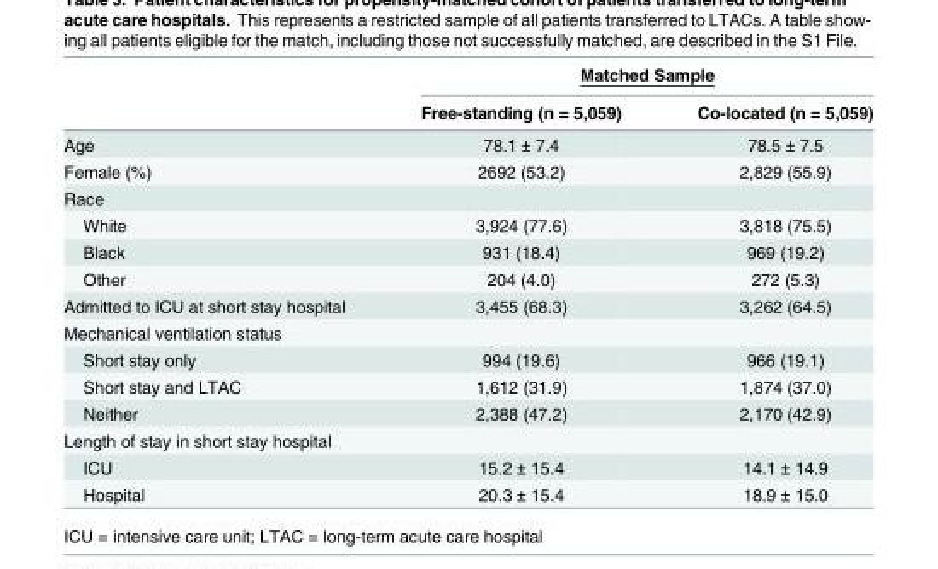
<table><thead><tr><td rowspan="2"></td><td colspan="2">Matched Sample</td></tr><tr><td>Free-standing (n = 5,059)</td><td>Co-located (n = 5,059)</td></tr></thead><tbody><tr><td>Age</td><td>78.1 ± 7.4</td><td>78.5 ± 7.5</td></tr><tr><td>Female (%)</td><td>2692 (53.2)</td><td>2,829 (55.9)</td></tr><tr><td colspan="3">Race</td></tr><tr><td>White</td><td>3,924 (77.6)</td><td>3,818 (75.5)</td></tr><tr><td>Black</td><td>931 (18.4)</td><td>969 (19.2)</td></tr><tr><td>Other</td><td>204 (4.0)</td><td>272 (5.3)</td></tr><tr><td>Admitted to ICU at short stay hospital</td><td>3,455 (68.3)</td><td>3,262 (64.5)</td></tr><tr><td colspan="3">Mechanical ventilation status</td></tr><tr><td>Short stay only</td><td>994 (19.6)</td><td>966 (19.1)</td></tr><tr><td>Short stay and LTAC</td><td>1,612 (31.9)</td><td>1,874 (37.0)</td></tr><tr><td>Neither</td><td>2,388 (47.2)</td><td>2,170 (42.9)</td></tr><tr><td colspan="3">Length of stay in short stay hospital</td></tr><tr><td>ICU</td><td>15.2 ± 15.4</td><td>14.1 ± 14.9</td></tr><tr><td>Hospital</td><td>20.3 ± 15.4</td><td>18.9 ± 15.0</td></tr></tbody></table>